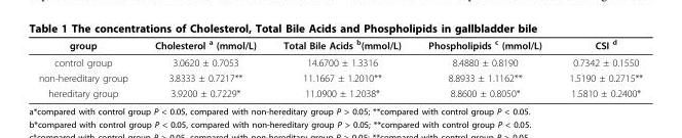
<table><thead><tr><td>group</td><td>Cholesterol <sup>a</sup> (mmol/L)</td><td>Total Bile Acids <sup>b</sup>(mmol/L)</td><td>Phospholipids <sup>c</sup> (mmol/L)</td><td>CSI <sup>d</sup></td></tr></thead><tbody><tr><td>control group</td><td>3.0620 ± 0.7053</td><td>14.6700 ± 1.3316</td><td>8.4880 ± 0.8190</td><td>0.7342 ± 0.1550</td></tr><tr><td>non-hereditary group</td><td>3.8333 ± 0.7217**</td><td>11.1667 ± 1.2010**</td><td>8.8933 ± 1.1162**</td><td>1.5190 ± 0.2715**</td></tr><tr><td>hereditary group</td><td>3.9200 ± 0.7229*</td><td>11.0900 ± 1.2038*</td><td>8.8600 ± 0.8050*</td><td>1.5810 ± 0.2400*</td></tr></tbody></table>